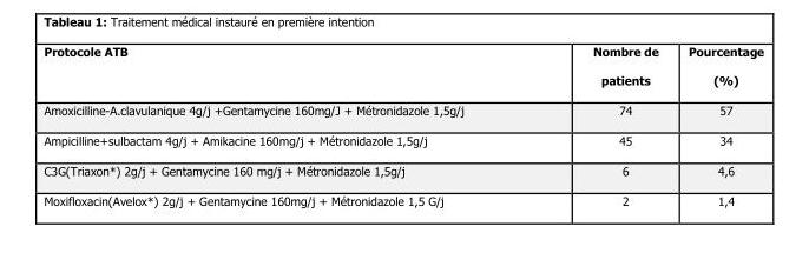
<table><thead><tr><td>Protocole ATB</td><td>Nombre de patients</td><td>Pourcentage (%)</td></tr></thead><tbody><tr><td>Amoxicilline-A.clavulanique 4g/j +Gentamycine 160mg/J + Métronidazole 1,5g/j</td><td>74</td><td>57</td></tr><tr><td>Ampicilline+sulbactam 4g/j + Amikacine 160mg/j + Métronidazole 1,5g/j</td><td>45</td><td>34</td></tr><tr><td>C3G(Triaxon*) 2g/j + Gentamycine 160 mg/j + Métronidazole 1,5g/j</td><td>6</td><td>4,6</td></tr><tr><td>Moxifloxacin(Avelox*) 2g/j + Gentamycine 160mg/j + Métronidazole 1,5 G/j</td><td>2</td><td>1,4</td></tr></tbody></table>